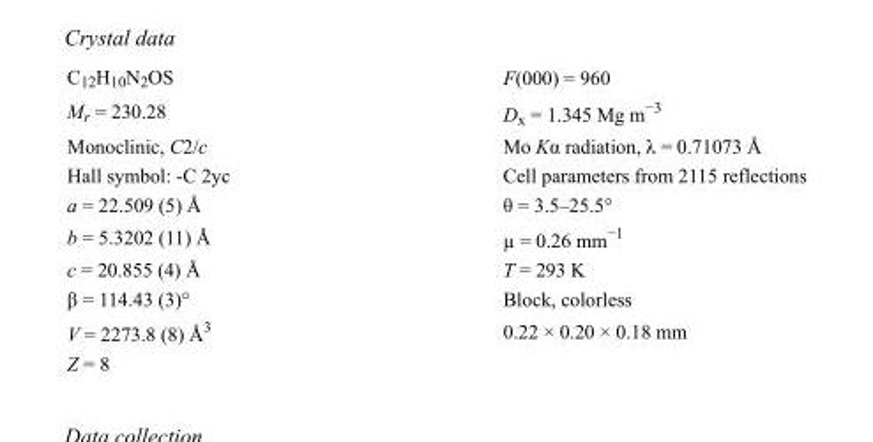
<table><tbody><tr><td>C<sub>12</sub>H<sub>10</sub>N<sub>2</sub>OS</td><td>F(000) = 960</td></tr><tr><td>M<sub>r</sub> = 230.28</td><td>D<sub>x</sub> = 1.345 Mg m<sup>−3</sup></td></tr><tr><td>Monoclinic, C2/c</td><td>Mo Kα radiation, λ = 0.71073 Å</td></tr><tr><td>Hall symbol: -C 2yc</td><td>Cell parameters from 2115 reflections</td></tr><tr><td>a = 22.509 (5) Å</td><td>θ = 3.5–25.5°</td></tr><tr><td>b = 5.3202 (11) Å</td><td>µ = 0.26 mm<sup>−1</sup></td></tr><tr><td>c = 20.855 (4) Å</td><td>T = 293 K</td></tr><tr><td>β = 114.43 (3)°</td><td>Block, colorless</td></tr><tr><td>V = 2273.8 (8) Å<sup>3</sup></td><td>0.22 × 0.20 × 0.18 mm</td></tr><tr><td>Z = 8</td><td></td></tr></tbody></table>